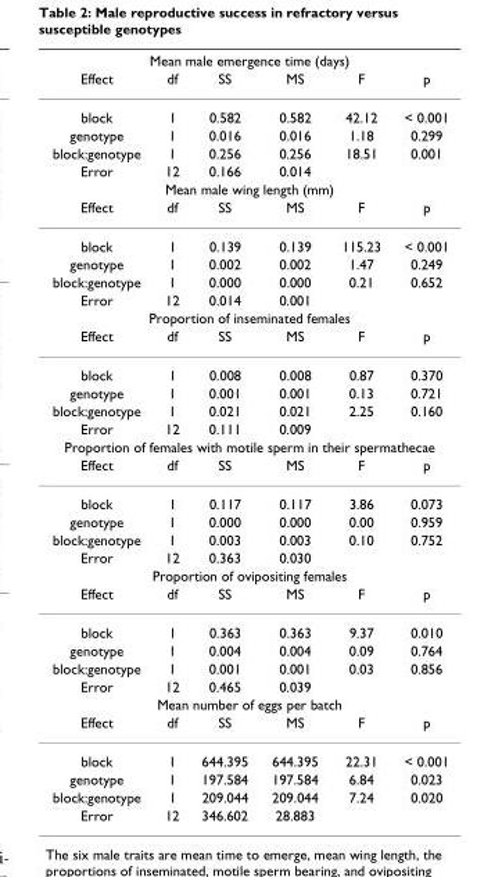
<table><thead><tr><td colspan="6">Mean male emergence time (days)</td></tr><tr><td>Effect</td><td>df</td><td>SS</td><td>MS</td><td>F</td><td>p</td></tr></thead><tbody><tr><td>block</td><td>1</td><td>0.582</td><td>0.582</td><td>42.12</td><td>&lt; 0.001</td></tr><tr><td>genotype</td><td>1</td><td>0.016</td><td>0.016</td><td>1.18</td><td>0.299</td></tr><tr><td>block:genotype</td><td>1</td><td>0.256</td><td>0.256</td><td>18.51</td><td>0.001</td></tr><tr><td>Error</td><td>12</td><td>0.166</td><td>0.014</td><td></td><td></td></tr><tr><td colspan="6">Mean male wing length (mm)</td></tr><tr><td>Effect</td><td>df</td><td>SS</td><td>MS</td><td>F</td><td>p</td></tr><tr><td>block</td><td>1</td><td>0.139</td><td>0.139</td><td>115.23</td><td>&lt; 0.001</td></tr><tr><td>genotype</td><td>1</td><td>0.002</td><td>0.002</td><td>1.47</td><td>0.249</td></tr><tr><td>block:genotype</td><td>1</td><td>0.000</td><td>0.000</td><td>0.21</td><td>0.652</td></tr><tr><td>Error</td><td>12</td><td>0.014</td><td>0.001</td><td></td><td></td></tr><tr><td colspan="6">Proportion of inseminated females</td></tr><tr><td>Effect</td><td>df</td><td>SS</td><td>MS</td><td>F</td><td>p</td></tr><tr><td>block</td><td>1</td><td>0.008</td><td>0.008</td><td>0.87</td><td>0.370</td></tr><tr><td>genotype</td><td>1</td><td>0.001</td><td>0.001</td><td>0.13</td><td>0.721</td></tr><tr><td>block:genotype</td><td>1</td><td>0.021</td><td>0.021</td><td>2.25</td><td>0.160</td></tr><tr><td>Error</td><td>12</td><td>0.111</td><td>0.009</td><td></td><td></td></tr><tr><td colspan="6">Proportion of females with motile sperm in their spermathecae</td></tr><tr><td>Effect</td><td>df</td><td>SS</td><td>MS</td><td>F</td><td>p</td></tr><tr><td>block</td><td>1</td><td>0.117</td><td>0.117</td><td>3.86</td><td>0.073</td></tr><tr><td>genotype</td><td>1</td><td>0.000</td><td>0.000</td><td>0.00</td><td>0.959</td></tr><tr><td>block:genotype</td><td>1</td><td>0.003</td><td>0.003</td><td>0.10</td><td>0.752</td></tr><tr><td>Error</td><td>12</td><td>0.363</td><td>0.030</td><td></td><td></td></tr><tr><td colspan="6">Proportion of ovipositing females</td></tr><tr><td>Effect</td><td>df</td><td>SS</td><td>MS</td><td>F</td><td>p</td></tr><tr><td>block</td><td>1</td><td>0.363</td><td>0.363</td><td>9.37</td><td>0.010</td></tr><tr><td>genotype</td><td>1</td><td>0.004</td><td>0.004</td><td>0.09</td><td>0.764</td></tr><tr><td>block:genotype</td><td>1</td><td>0.001</td><td>0.001</td><td>0.03</td><td>0.856</td></tr><tr><td>Error</td><td>12</td><td>0.465</td><td>0.039</td><td></td><td></td></tr><tr><td colspan="6">Mean number of eggs per batch</td></tr><tr><td>Effect</td><td>df</td><td>SS</td><td>MS</td><td>F</td><td>p</td></tr><tr><td>block</td><td>1</td><td>644.395</td><td>644.395</td><td>22.31</td><td>&lt; 0.001</td></tr><tr><td>genotype</td><td>1</td><td>197.584</td><td>197.584</td><td>6.84</td><td>0.023</td></tr><tr><td>block:genotype</td><td>1</td><td>209.044</td><td>209.044</td><td>7.24</td><td>0.020</td></tr><tr><td>Error</td><td>12</td><td>346.602</td><td>28.883</td><td></td><td></td></tr></tbody></table>